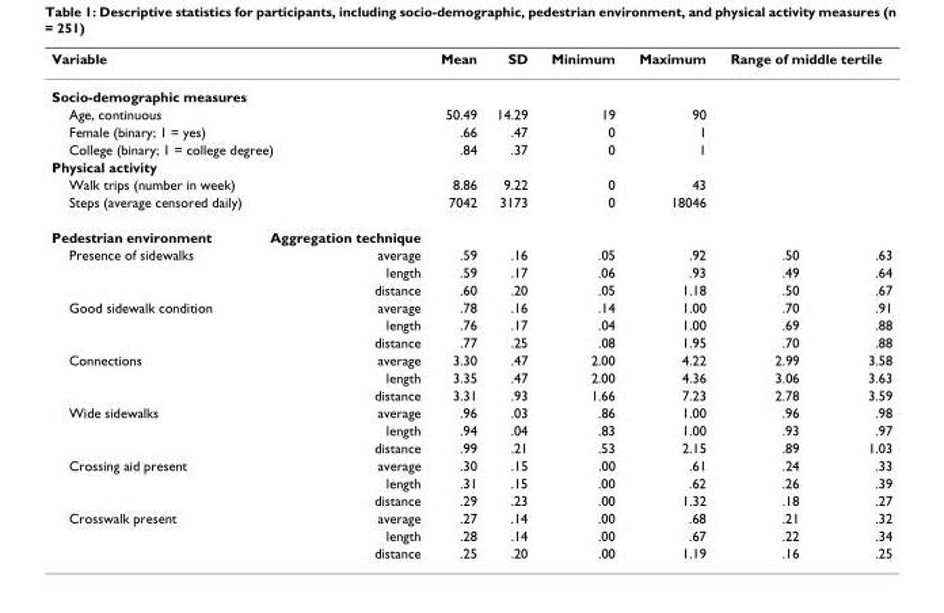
<table><thead><tr><td colspan="2">Variable</td><td>Mean</td><td>SD</td><td>Minimum</td><td>Maximum</td><td colspan="2">Range of middle tertile</td></tr></thead><tbody><tr><td colspan="8">Socio-demographic measures</td></tr><tr><td colspan="2">Age, continuous</td><td>50.49</td><td>14.29</td><td>19</td><td>90</td><td></td><td></td></tr><tr><td colspan="2">Female (binary; 1 = yes)</td><td>.66</td><td>.47</td><td>0</td><td>1</td><td></td><td></td></tr><tr><td colspan="2">College (binary; 1 = college degree)</td><td>.84</td><td>.37</td><td>0</td><td>1</td><td></td><td></td></tr><tr><td colspan="8">Physical activity</td></tr><tr><td colspan="2">Walk trips (number in week)</td><td>8.86</td><td>9.22</td><td>0</td><td>43</td><td></td><td></td></tr><tr><td colspan="2">Steps (average censored daily)</td><td>7042</td><td>3173</td><td>0</td><td>18046</td><td></td><td></td></tr><tr><td>Pedestrian environment</td><td>Aggregation technique</td><td></td><td></td><td></td><td></td><td></td><td></td></tr><tr><td rowspan="3">Presence of sidewalks</td><td>average</td><td>.59</td><td>.16</td><td>.05</td><td>.92</td><td>.50</td><td>.63</td></tr><tr><td>length</td><td>.59</td><td>.17</td><td>.06</td><td>.93</td><td>.49</td><td>.64</td></tr><tr><td>distance</td><td>.60</td><td>.20</td><td>.05</td><td>1.18</td><td>.50</td><td>.67</td></tr><tr><td rowspan="3">Good sidewalk condition</td><td>average</td><td>.78</td><td>.16</td><td>.14</td><td>1.00</td><td>.70</td><td>.91</td></tr><tr><td>length</td><td>.76</td><td>.17</td><td>.04</td><td>1.00</td><td>.69</td><td>.88</td></tr><tr><td>distance</td><td>.77</td><td>.25</td><td>.08</td><td>1.95</td><td>.70</td><td>.88</td></tr><tr><td rowspan="3">Connections</td><td>average</td><td>3.30</td><td>.47</td><td>2.00</td><td>4.22</td><td>2.99</td><td>3.58</td></tr><tr><td>length</td><td>3.35</td><td>.47</td><td>2.00</td><td>4.36</td><td>3.06</td><td>3.63</td></tr><tr><td>distance</td><td>3.31</td><td>.93</td><td>1.66</td><td>7.23</td><td>2.78</td><td>3.59</td></tr><tr><td rowspan="3">Wide sidewalks</td><td>average</td><td>.96</td><td>.03</td><td>.86</td><td>1.00</td><td>.96</td><td>.98</td></tr><tr><td>length</td><td>.94</td><td>.04</td><td>.83</td><td>1.00</td><td>.93</td><td>.97</td></tr><tr><td>distance</td><td>.99</td><td>.21</td><td>.53</td><td>2.15</td><td>.89</td><td>1.03</td></tr><tr><td rowspan="3">Crossing aid present</td><td>average</td><td>.30</td><td>.15</td><td>.00</td><td>.61</td><td>.24</td><td>.33</td></tr><tr><td>length</td><td>.31</td><td>.15</td><td>.00</td><td>.62</td><td>.26</td><td>.39</td></tr><tr><td>distance</td><td>.29</td><td>.23</td><td>.00</td><td>1.32</td><td>.18</td><td>.27</td></tr><tr><td rowspan="3">Crosswalk present</td><td>average</td><td>.27</td><td>.14</td><td>.00</td><td>.68</td><td>.21</td><td>.32</td></tr><tr><td>length</td><td>.28</td><td>.14</td><td>.00</td><td>.67</td><td>.22</td><td>.34</td></tr><tr><td>distance</td><td>.25</td><td>.20</td><td>.00</td><td>1.19</td><td>.16</td><td>.25</td></tr></tbody></table>